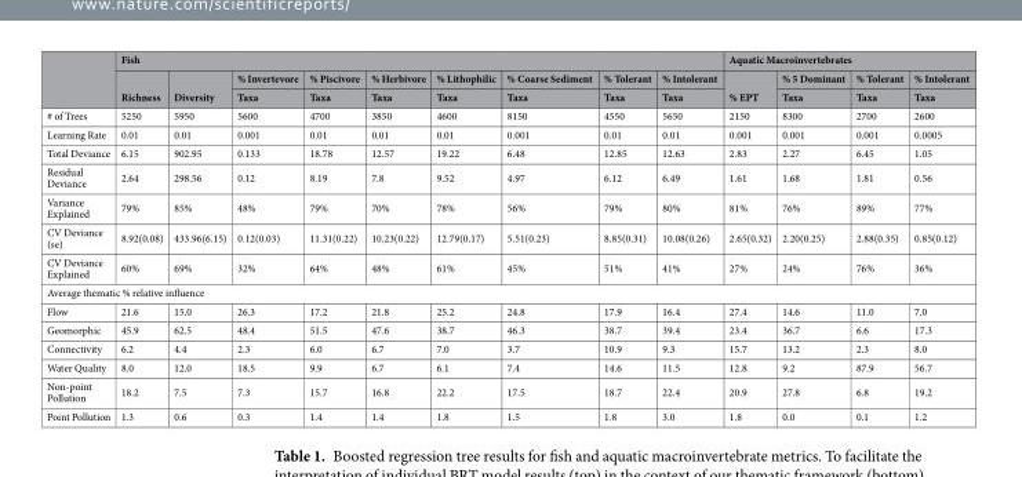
<table><thead><tr><td rowspan="3"></td><td colspan="9">Fish</td><td colspan="4">Aquatic Macroinvertebrates</td></tr><tr><td rowspan="2">Richness</td><td rowspan="2">Diversity</td><td rowspan="2">% Invertevore Taxa</td><td rowspan="2">% Piscivore Taxa</td><td rowspan="2">% Herbivore Taxa</td><td rowspan="2">% Lithophilic Taxa</td><td rowspan="2">% Coarse Sediment Taxa</td><td rowspan="2">% Tolerant Taxa</td><td rowspan="2">% Intolerant Taxa</td><td rowspan="2">% EPT</td><td rowspan="2">% 5 Dominant Taxa</td><td rowspan="2">% Tolerant Taxa</td><td rowspan="2">% Intolerant Taxa</td></tr><tr></tr></thead><tbody><tr><td># of Trees</td><td>5250</td><td>5950</td><td>5600</td><td>4700</td><td>3850</td><td>4600</td><td>8150</td><td>4550</td><td>5650</td><td>2150</td><td>8300</td><td>2700</td><td>2600</td></tr><tr><td>Learning Rate</td><td>0.01</td><td>0.01</td><td>0.001</td><td>0.01</td><td>0.01</td><td>0.01</td><td>0.001</td><td>0.01</td><td>0.01</td><td>0.001</td><td>0.001</td><td>0.001</td><td>0.0005</td></tr><tr><td>Total Deviance</td><td>6.15</td><td>902.95</td><td>0.133</td><td>18.78</td><td>12.57</td><td>19.22</td><td>6.48</td><td>12.85</td><td>12.63</td><td>2.83</td><td>2.27</td><td>6.45</td><td>1.05</td></tr><tr><td>Residual Deviance</td><td>2.64</td><td>298.56</td><td>0.12</td><td>8.19</td><td>7.8</td><td>9.52</td><td>4.97</td><td>6.12</td><td>6.49</td><td>1.61</td><td>1.68</td><td>1.81</td><td>0.56</td></tr><tr><td>Variance Explained</td><td>79%</td><td>85%</td><td>48%</td><td>79%</td><td>70%</td><td>78%</td><td>56%</td><td>79%</td><td>80%</td><td>81%</td><td>76%</td><td>89%</td><td>77%</td></tr><tr><td>CV Deviance (se)</td><td>8.92(0.08)</td><td>433.96(6.15)</td><td>0.12(0.03)</td><td>11.31(0.22)</td><td>10.23(0.22)</td><td>12.79(0.17)</td><td>5.51(0.23)</td><td>8.85(0.31)</td><td>10.08(0.26)</td><td>2.65(0.32)</td><td>2.20(0.25)</td><td>2.88(0.35)</td><td>0.85(0.12)</td></tr><tr><td>CV Deviance Explained</td><td>60%</td><td>69%</td><td>32%</td><td>64%</td><td>48%</td><td>61%</td><td>45%</td><td>51%</td><td>41%</td><td>27%</td><td>24%</td><td>76%</td><td>36%</td></tr><tr><td colspan="14">Average thematic % relative influence</td></tr><tr><td>Flow</td><td>21.6</td><td>15.0</td><td>26.3</td><td>17.2</td><td>21.8</td><td>25.2</td><td>24.8</td><td>17.9</td><td>16.4</td><td>27.4</td><td>14.6</td><td>11.0</td><td>7.0</td></tr><tr><td>Geomorphic</td><td>45.9</td><td>62.5</td><td>48.4</td><td>51.5</td><td>47.6</td><td>38.7</td><td>46.3</td><td>38.7</td><td>39.4</td><td>23.4</td><td>36.7</td><td>6.6</td><td>17.3</td></tr><tr><td>Connectivity</td><td>6.2</td><td>4.4</td><td>2.3</td><td>6.0</td><td>6.7</td><td>7.0</td><td>3.7</td><td>10.9</td><td>9.3</td><td>15.7</td><td>13.2</td><td>2.3</td><td>8.0</td></tr><tr><td>Water Quality</td><td>8.0</td><td>12.0</td><td>18.5</td><td>9.9</td><td>6.7</td><td>6.1</td><td>7.4</td><td>14.6</td><td>11.5</td><td>12.8</td><td>9.2</td><td>87.9</td><td>56.7</td></tr><tr><td>Non-point Pollution</td><td>18.2</td><td>7.5</td><td>7.3</td><td>15.7</td><td>16.8</td><td>22.2</td><td>17.5</td><td>18.7</td><td>22.4</td><td>20.9</td><td>27.8</td><td>6.8</td><td>19.2</td></tr><tr><td>Point Pollution</td><td>1.3</td><td>0.6</td><td>0.3</td><td>1.4</td><td>1.4</td><td>1.8</td><td>1.5</td><td>1.8</td><td>3.0</td><td>1.8</td><td>0.0</td><td>0.1</td><td>1.2</td></tr></tbody></table>